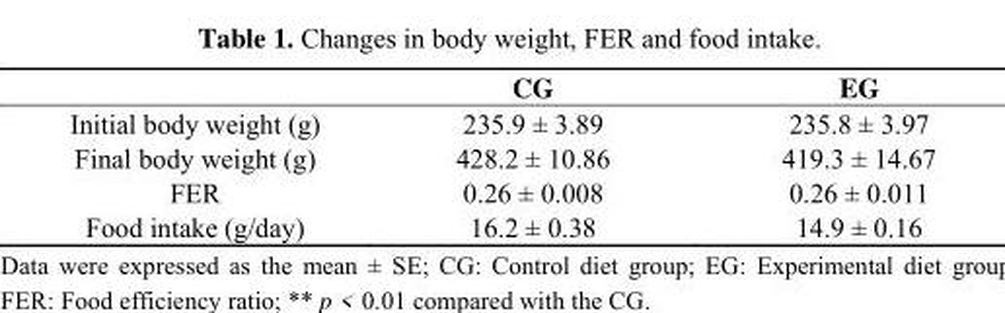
<table><thead><tr><td></td><td>CG</td><td>EG</td></tr></thead><tbody><tr><td>Initial body weight (g)</td><td>235.9 ± 3.89</td><td>235.8 ± 3.97</td></tr><tr><td>Final body weight (g)</td><td>428.2 ± 10.86</td><td>419.3 ± 14.67</td></tr><tr><td>FER</td><td>0.26 ± 0.008</td><td>0.26 ± 0.011</td></tr><tr><td>Food intake (g/day)</td><td>16.2 ± 0.38</td><td>14.9 ± 0.16</td></tr></tbody></table>